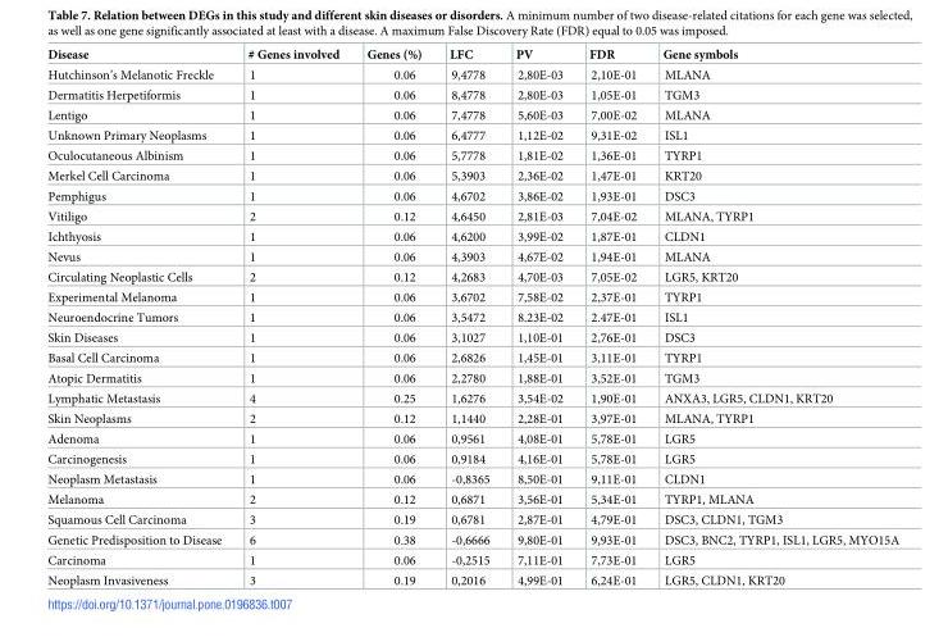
<table><thead><tr><td>Disease</td><td># Genes involved</td><td>Genes (%)</td><td>LFC</td><td>PV</td><td>FDR</td><td>Gene symbols</td></tr></thead><tbody><tr><td>Hutchinson’s Melanotic Freckle</td><td>1</td><td>0.06</td><td>9,4778</td><td>2,80E-03</td><td>2,10E-01</td><td>MLANA</td></tr><tr><td>Dermatitis Herpetiformis</td><td>1</td><td>0.06</td><td>8,4778</td><td>2,80E-03</td><td>1,05E-01</td><td>TGM3</td></tr><tr><td>Lentigo</td><td>1</td><td>0.06</td><td>7,4778</td><td>5,60E-03</td><td>7,00E-02</td><td>MLANA</td></tr><tr><td>Unknown Primary Neoplasms</td><td>1</td><td>0.06</td><td>6,4777</td><td>1,12E-02</td><td>9,31E-02</td><td>ISL1</td></tr><tr><td>Oculocutaneous Albinism</td><td>1</td><td>0.06</td><td>5,7778</td><td>1,81E-02</td><td>1,36E-01</td><td>TYRP1</td></tr><tr><td>Merkel Cell Carcinoma</td><td>1</td><td>0.06</td><td>5,3903</td><td>2,36E-02</td><td>1,47E-01</td><td>KRT20</td></tr><tr><td>Pemphigus</td><td>1</td><td>0.06</td><td>4,6702</td><td>3,86E-02</td><td>1,93E-01</td><td>DSC3</td></tr><tr><td>Vitiligo</td><td>2</td><td>0.12</td><td>4,6450</td><td>2,81E-03</td><td>7,04E-02</td><td>MLANA, TYRP1</td></tr><tr><td>Ichthyosis</td><td>1</td><td>0.06</td><td>4,6200</td><td>3,99E-02</td><td>1,87E-01</td><td>CLDN1</td></tr><tr><td>Nevus</td><td>1</td><td>0.06</td><td>4,3903</td><td>4,67E-02</td><td>1,94E-01</td><td>MLANA</td></tr><tr><td>Circulating Neoplastic Cells</td><td>2</td><td>0.12</td><td>4,2683</td><td>4,70E-03</td><td>7,05E-02</td><td>LGR5, KRT20</td></tr><tr><td>Experimental Melanoma</td><td>1</td><td>0.06</td><td>3,6702</td><td>7,58E-02</td><td>2,37E-01</td><td>TYRP1</td></tr><tr><td>Neuroendocrine Tumors</td><td>1</td><td>0.06</td><td>3,5472</td><td>8.23E-02</td><td>2.47E-01</td><td>ISL1</td></tr><tr><td>Skin Diseases</td><td>1</td><td>0.06</td><td>3,1027</td><td>1,10E-01</td><td>2,76E-01</td><td>DSC3</td></tr><tr><td>Basal Cell Carcinoma</td><td>1</td><td>0.06</td><td>2,6826</td><td>1,45E-01</td><td>3,11E-01</td><td>TYRP1</td></tr><tr><td>Atopic Dermatitis</td><td>1</td><td>0.06</td><td>2,2780</td><td>1,88E-01</td><td>3,52E-01</td><td>TGM3</td></tr><tr><td>Lymphatic Metastasis</td><td>4</td><td>0.25</td><td>1,6276</td><td>3,54E-02</td><td>1,90E-01</td><td>ANXA3, LGR5, CLDN1, KRT20</td></tr><tr><td>Skin Neoplasms</td><td>2</td><td>0.12</td><td>1,1440</td><td>2,28E-01</td><td>3,97E-01</td><td>MLANA, TYRP1</td></tr><tr><td>Adenoma</td><td>1</td><td>0.06</td><td>0,9561</td><td>4,08E-01</td><td>5,78E-01</td><td>LGR5</td></tr><tr><td>Carcinogenesis</td><td>1</td><td>0.06</td><td>0,9184</td><td>4,16E-01</td><td>5,78E-01</td><td>LGR5</td></tr><tr><td>Neoplasm Metastasis</td><td>1</td><td>0.06</td><td>-0,8365</td><td>8,50E-01</td><td>9,11E-01</td><td>CLDN1</td></tr><tr><td>Melanoma</td><td>2</td><td>0.12</td><td>0,6871</td><td>3,56E-01</td><td>5,34E-01</td><td>TYRP1, MLANA</td></tr><tr><td>Squamous Cell Carcinoma</td><td>3</td><td>0.19</td><td>0,6781</td><td>2,87E-01</td><td>4,79E-01</td><td>DSC3, CLDN1, TGM3</td></tr><tr><td>Genetic Predisposition to Disease</td><td>6</td><td>0.38</td><td>-0,6666</td><td>9,80E-01</td><td>9,93E-01</td><td>DSC3, BNC2, TYRP1, ISL1, LGR5, MYO15A</td></tr><tr><td>Carcinoma</td><td>1</td><td>0.06</td><td>-0,2515</td><td>7,11E-01</td><td>7,73E-01</td><td>LGR5</td></tr><tr><td>Neoplasm Invasiveness</td><td>3</td><td>0.19</td><td>0,2016</td><td>4,99E-01</td><td>6,24E-01</td><td>LGR5, CLDN1, KRT20</td></tr></tbody></table>